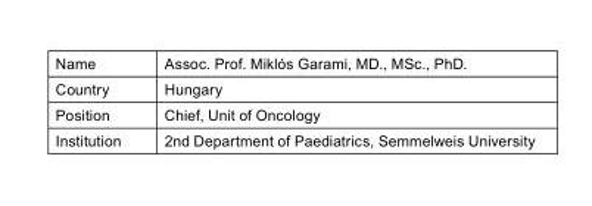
<table><tbody><tr><td>Name</td><td>Assoc. Prof. Miklós Garami, MD., MSc., PhD.</td></tr><tr><td>Country</td><td>Hungary</td></tr><tr><td>Position</td><td>Chief, Unit of Oncology</td></tr><tr><td>Institution</td><td>2nd Department of Paediatrics, Semmelweis University</td></tr></tbody></table>